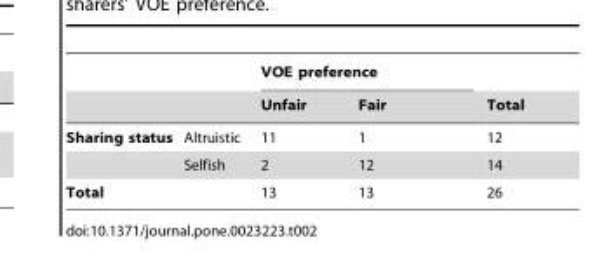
<table><thead><tr><td rowspan="2"></td><td rowspan="2"></td><td colspan="2">VOE preference</td><td rowspan="2">Total</td></tr><tr><td>Unfair</td><td>Fair</td></tr></thead><tbody><tr><td rowspan="2">Sharing status</td><td>Altruistic</td><td>11</td><td>1</td><td>12</td></tr><tr><td>Selfish</td><td>2</td><td>12</td><td>14</td></tr><tr><td>Total</td><td></td><td>13</td><td>13</td><td>26</td></tr></tbody></table>